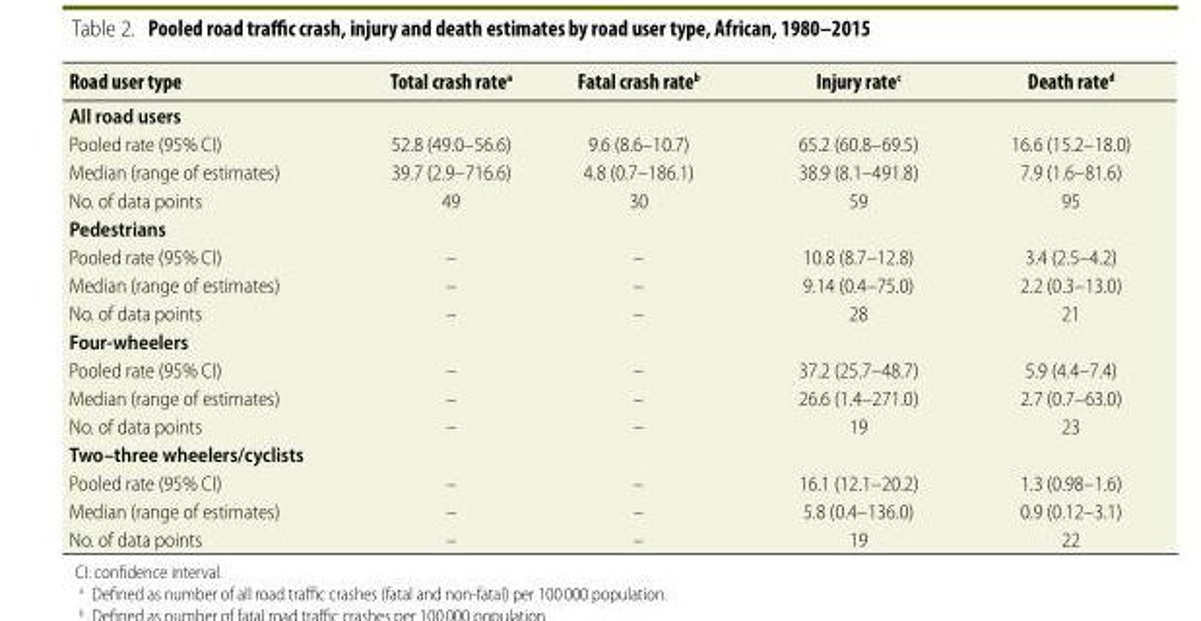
<table><thead><tr><td>Road user type</td><td>Total crash rate<sup>a</sup></td><td>Fatal crash rate<sup>b</sup></td><td>Injury rate<sup>c</sup></td><td>Death rate<sup>d</sup></td></tr></thead><tbody><tr><td colspan="5">All road users</td></tr><tr><td>Pooled rate (95% CI)</td><td>52.8 (49.0–56.6)</td><td>9.6 (8.6–10.7)</td><td>65.2 (60.8–69.5)</td><td>16.6 (15.2–18.0)</td></tr><tr><td>Median (range of estimates)</td><td>39.7 (2.9–716.6)</td><td>4.8 (0.7–186.1)</td><td>38.9 (8.1–491.8)</td><td>7.9 (1.6–81.6)</td></tr><tr><td>No. of data points</td><td>49</td><td>30</td><td>59</td><td>95</td></tr><tr><td colspan="5">Pedestrians</td></tr><tr><td>Pooled rate (95% CI)</td><td>–</td><td>–</td><td>10.8 (8.7–12.8)</td><td>3.4 (2.5–4.2)</td></tr><tr><td>Median (range of estimates)</td><td>–</td><td>–</td><td>9.14 (0.4–75.0)</td><td>2.2 (0.3–13.0)</td></tr><tr><td>No. of data points</td><td>–</td><td>–</td><td>28</td><td>21</td></tr><tr><td colspan="5">Four-wheelers</td></tr><tr><td>Pooled rate (95% CI)</td><td>–</td><td>–</td><td>37.2 (25.7–48.7)</td><td>5.9 (4.4–7.4)</td></tr><tr><td>Median (range of estimates)</td><td>–</td><td>–</td><td>26.6 (1.4–271.0)</td><td>2.7 (0.7–63.0)</td></tr><tr><td>No. of data points</td><td>–</td><td>–</td><td>19</td><td>23</td></tr><tr><td colspan="5">Two–three wheelers/cyclists</td></tr><tr><td>Pooled rate (95% CI)</td><td>–</td><td>–</td><td>16.1 (12.1–20.2)</td><td>1.3 (0.98–1.6)</td></tr><tr><td>Median (range of estimates)</td><td>–</td><td>–</td><td>5.8 (0.4–136.0)</td><td>0.9 (0.12–3.1)</td></tr><tr><td>No. of data points</td><td>–</td><td>–</td><td>19</td><td>22</td></tr></tbody></table>